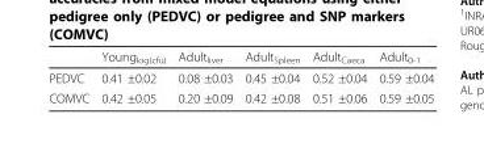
<table><thead><tr><td></td><td>Young<sub>log(cfu)</sub></td><td>Adult<sub>liver</sub></td><td>Adult<sub>Spleen</sub></td><td>Adult<sub>Caeca</sub></td><td>Adult<sub>0-1</sub></td></tr></thead><tbody><tr><td>PEDVC</td><td>0.41 ±0.02</td><td>0.08 ±0.03</td><td>0.45 ±0.04</td><td>0.52 ±0.04</td><td>0.59 ±0.04</td></tr><tr><td>COMVC</td><td>0.42 ±0.05</td><td>0.20 ±0.09</td><td>0.42 ±0.08</td><td>0.51 ±0.06</td><td>0.59 ±0.05</td></tr></tbody></table>